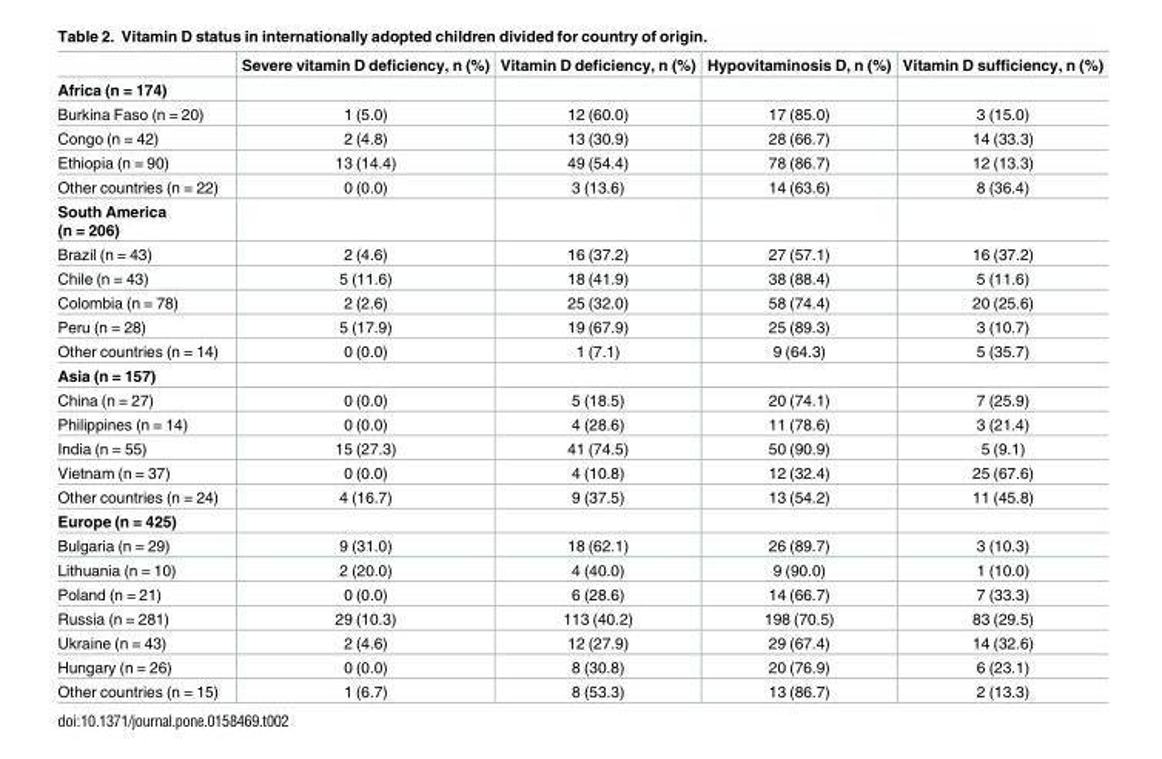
<table><thead><tr><td></td><td>Severe vitamin D deficiency, n (%)</td><td>Vitamin D deficiency, n (%)</td><td>Hypovitaminosis D, n (%)</td><td>Vitamin D sufficiency, n (%)</td></tr></thead><tbody><tr><td colspan="5">Africa (n = 174)</td></tr><tr><td>Burkina Faso (n = 20)</td><td>1 (5.0)</td><td>12 (60.0)</td><td>17 (85.0)</td><td>3 (15.0)</td></tr><tr><td>Congo (n = 42)</td><td>2 (4.8)</td><td>13 (30.9)</td><td>28 (66.7)</td><td>14 (33.3)</td></tr><tr><td>Ethiopia (n = 90)</td><td>13 (14.4)</td><td>49 (54.4)</td><td>78 (86.7)</td><td>12 (13.3)</td></tr><tr><td>Other countries (n = 22)</td><td>0 (0.0)</td><td>3 (13.6)</td><td>14 (63.6)</td><td>8 (36.4)</td></tr><tr><td colspan="5">South America (n = 206)</td></tr><tr><td>Brazil (n = 43)</td><td>2 (4.6)</td><td>16 (37.2)</td><td>27 (57.1)</td><td>16 (37.2)</td></tr><tr><td>Chile (n = 43)</td><td>5 (11.6)</td><td>18 (41.9)</td><td>38 (88.4)</td><td>5 (11.6)</td></tr><tr><td>Colombia (n = 78)</td><td>2 (2.6)</td><td>25 (32.0)</td><td>58 (74.4)</td><td>20 (25.6)</td></tr><tr><td>Peru (n = 28)</td><td>5 (17.9)</td><td>19 (67.9)</td><td>25 (89.3)</td><td>3 (10.7)</td></tr><tr><td>Other countries (n = 14)</td><td>0 (0.0)</td><td>1 (7.1)</td><td>9 (64.3)</td><td>5 (35.7)</td></tr><tr><td colspan="5">Asia (n = 157)</td></tr><tr><td>China (n = 27)</td><td>0 (0.0)</td><td>5 (18.5)</td><td>20 (74.1)</td><td>7 (25.9)</td></tr><tr><td>Philippines (n = 14)</td><td>0 (0.0)</td><td>4 (28.6)</td><td>11 (78.6)</td><td>3 (21.4)</td></tr><tr><td>India (n = 55)</td><td>15 (27.3)</td><td>41 (74.5)</td><td>50 (90.9)</td><td>5 (9.1)</td></tr><tr><td>Vietnam (n = 37)</td><td>0 (0.0)</td><td>4 (10.8)</td><td>12 (32.4)</td><td>25 (67.6)</td></tr><tr><td>Other countries (n = 24)</td><td>4 (16.7)</td><td>9 (37.5)</td><td>13 (54.2)</td><td>11 (45.8)</td></tr><tr><td colspan="5">Europe (n = 425)</td></tr><tr><td>Bulgaria (n = 29)</td><td>9 (31.0)</td><td>18 (62.1)</td><td>26 (89.7)</td><td>3 (10.3)</td></tr><tr><td>Lithuania (n = 10)</td><td>2 (20.0)</td><td>4 (40.0)</td><td>9 (90.0)</td><td>1 (10.0)</td></tr><tr><td>Poland (n = 21)</td><td>0 (0.0)</td><td>6 (28.6)</td><td>14 (66.7)</td><td>7 (33.3)</td></tr><tr><td>Russia (n = 281)</td><td>29 (10.3)</td><td>113 (40.2)</td><td>198 (70.5)</td><td>83 (29.5)</td></tr><tr><td>Ukraine (n = 43)</td><td>2 (4.6)</td><td>12 (27.9)</td><td>29 (67.4)</td><td>14 (32.6)</td></tr><tr><td>Hungary (n = 26)</td><td>0 (0.0)</td><td>8 (30.8)</td><td>20 (76.9)</td><td>6 (23.1)</td></tr><tr><td>Other countries (n = 15)</td><td>1 (6.7)</td><td>8 (53.3)</td><td>13 (86.7)</td><td>2 (13.3)</td></tr></tbody></table>